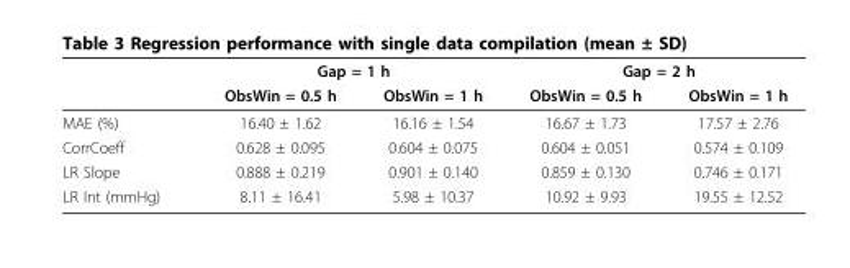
<table><thead><tr><td rowspan="2"></td><td colspan="2">Gap = 1 h</td><td colspan="2">Gap = 2 h</td></tr><tr><td>ObsWin = 0.5 h</td><td>ObsWin = 1 h</td><td>ObsWin = 0.5 h</td><td>ObsWin = 1 h</td></tr></thead><tbody><tr><td>MAE (%)</td><td>16.40 ± 1.62</td><td>16.16 ± 1.54</td><td>16.67 ± 1.73</td><td>17.57 ± 2.76</td></tr><tr><td>CorrCoeff</td><td>0.628 ± 0.095</td><td>0.604 ± 0.075</td><td>0.604 ± 0.051</td><td>0.574 ± 0.109</td></tr><tr><td>LR Slope</td><td>0.888 ± 0.219</td><td>0.901 ± 0.140</td><td>0.859 ± 0.130</td><td>0.746 ± 0.171</td></tr><tr><td>LR Int (mmHg)</td><td>8.11 ± 16.41</td><td>5.98 ± 10.37</td><td>10.92 ± 9.93</td><td>19.55 ± 12.52</td></tr></tbody></table>